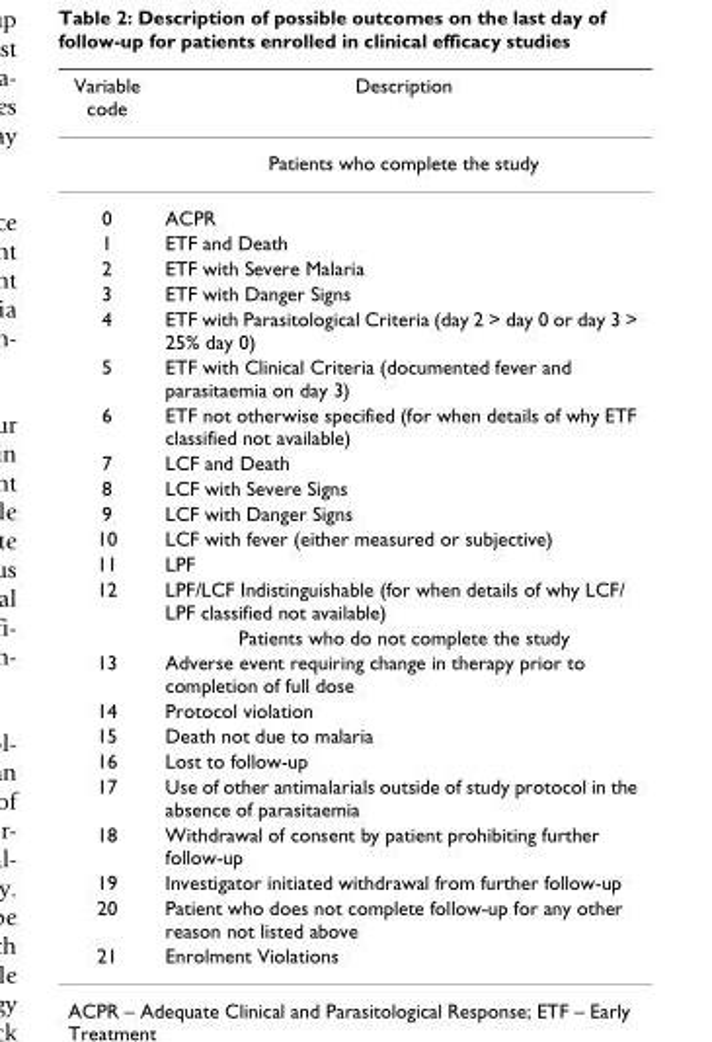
<table><thead><tr><td>Variable code</td><td>Description</td></tr></thead><tbody><tr><td></td><td>Patients who complete the study</td></tr><tr><td>0</td><td>ACPR</td></tr><tr><td>1</td><td>ETF and Death</td></tr><tr><td>2</td><td>ETF with Severe Malaria</td></tr><tr><td>3</td><td>ETF with Danger Signs</td></tr><tr><td>4</td><td>ETF with Parasitological Criteria (day 2 &gt; day 0 or day 3 &gt; 25% day 0)</td></tr><tr><td>5</td><td>ETF with Clinical Criteria (documented fever and parasitaemia on day 3)</td></tr><tr><td>6</td><td>ETF not otherwise specified (for when details of why ETF classified not available)</td></tr><tr><td>7</td><td>LCF and Death</td></tr><tr><td>8</td><td>LCF with Severe Signs</td></tr><tr><td>9</td><td>LCF with Danger Signs</td></tr><tr><td>10</td><td>LCF with fever (either measured or subjective)</td></tr><tr><td>11</td><td>LPF</td></tr><tr><td rowspan="2">12</td><td>LPF/LCF Indistinguishable (for when details of why LCF/ LPF classified not available)</td></tr><tr><td>Patients who do not complete the study</td></tr><tr><td>13</td><td>Adverse event requiring change in therapy prior to completion of full dose</td></tr><tr><td>14</td><td>Protocol violation</td></tr><tr><td>15</td><td>Death not due to malaria</td></tr><tr><td>16</td><td>Lost to follow-up</td></tr><tr><td>17</td><td>Use of other antimalarials outside of study protocol in the absence of parasitaemia</td></tr><tr><td>18</td><td>Withdrawal of consent by patient prohibiting further follow-up</td></tr><tr><td>19</td><td>Investigator initiated withdrawal from further follow-up</td></tr><tr><td>20</td><td>Patient who does not complete follow-up for any other reason not listed above</td></tr><tr><td>21</td><td>Enrolment Violations</td></tr></tbody></table>